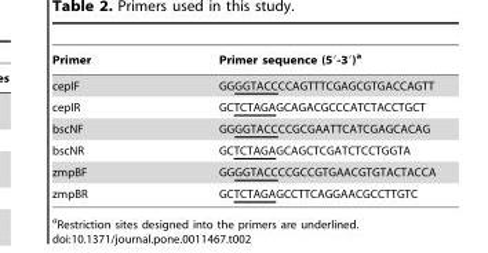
<table><thead><tr><td>Primer</td><td>Primer sequence (5′-3′)<sup>a</sup></td></tr></thead><tbody><tr><td>cepIF</td><td>GGGGTACCCCAGTTTCGAGCGTGACCAGTT</td></tr><tr><td>cepIR</td><td>GCTCTAGAGCAGACGCCCATCTACCTGCT</td></tr><tr><td>bscNF</td><td>GGGGTACCCCGCGAATTCATCGAGCACAG</td></tr><tr><td>bscNR</td><td>GCTCTAGAGCAGCTCGATCTCCTGGTA</td></tr><tr><td>zmpBF</td><td>GGGGTACCCCGCCGTGAACGTGTACTACCA</td></tr><tr><td>zmpBR</td><td>GCTCTAGAGCCTTCAGGAACGCCTTGTC</td></tr></tbody></table>